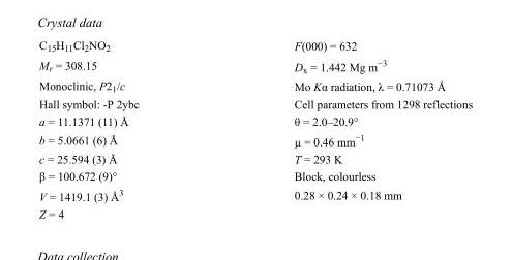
<table><tbody><tr><td>C<sub>15</sub>H<sub>11</sub>Cl<sub>2</sub>NO<sub>2</sub></td><td>F(000) = 632</td></tr><tr><td>M<sub>r</sub> = 308.15</td><td>D<sub>x</sub> = 1.442 Mg m<sup>−3</sup></td></tr><tr><td>Monoclinic, P2<sub>1</sub>/c</td><td>Mo Kα radiation, λ = 0.71073 Å</td></tr><tr><td>Hall symbol: -P 2ybc</td><td>Cell parameters from 1298 reflections</td></tr><tr><td>a = 11.1371 (11) Å</td><td>θ = 2.0–20.9°</td></tr><tr><td>b = 5.0661 (6) Å</td><td>µ = 0.46 mm<sup>−1</sup></td></tr><tr><td>c = 25.594 (3) Å</td><td>T = 293 K</td></tr><tr><td>β = 100.672 (9)°</td><td>Block, colourless</td></tr><tr><td>V = 1419.1 (3) Å<sup>3</sup></td><td>0.28 × 0.24 × 0.18 mm</td></tr><tr><td>Z = 4</td><td></td></tr></tbody></table>